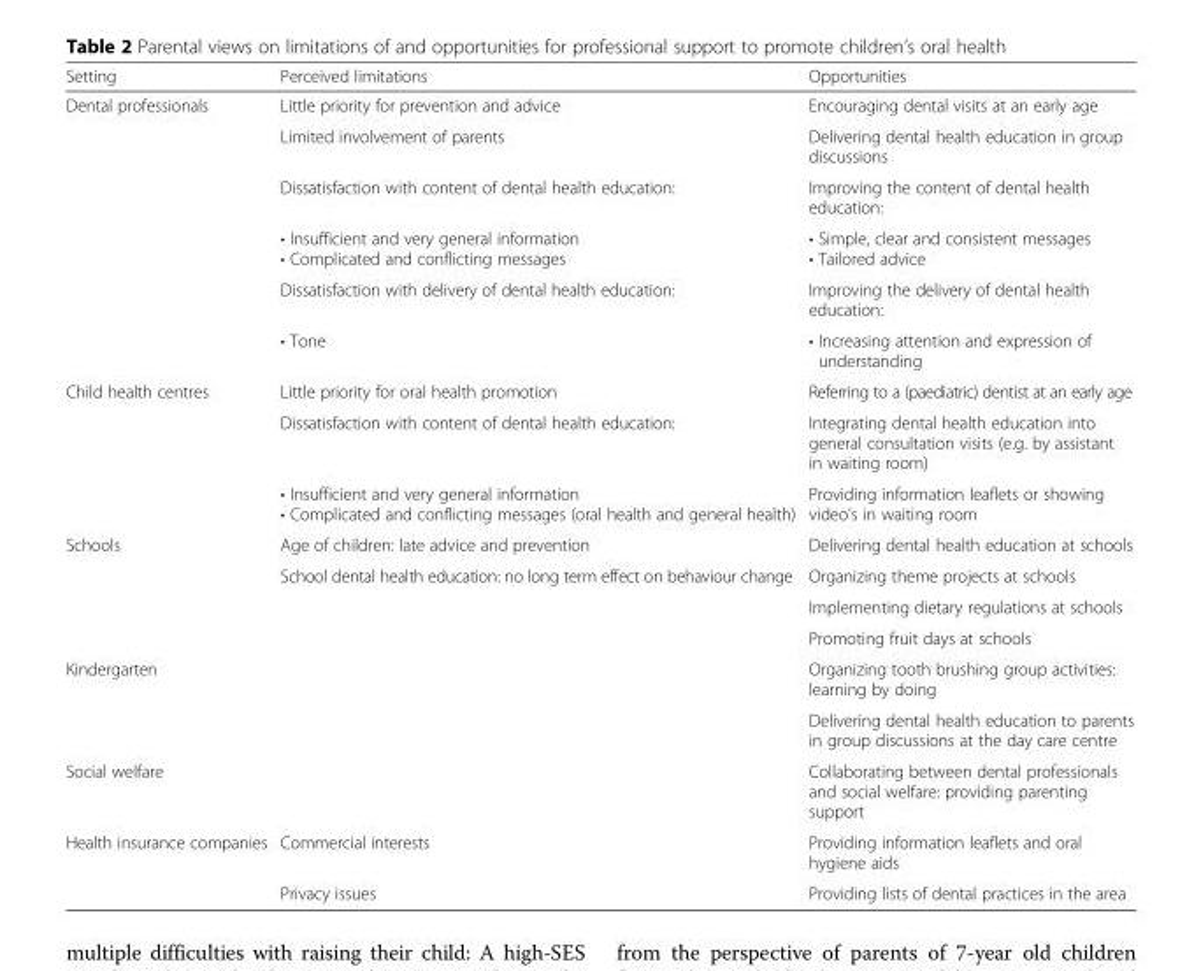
<table><thead><tr><td>Setting</td><td>Perceived limitations</td><td>Opportunities</td></tr></thead><tbody><tr><td rowspan="6">Dental professionals</td><td>Little priority for prevention and advice</td><td>Encouraging dental visits at an early age</td></tr><tr><td>Limited involvement of parents</td><td>Delivering dental health education in group discussions</td></tr><tr><td>Dissatisfaction with content of dental health education:</td><td>Improving the content of dental health education:</td></tr><tr><td>• Insufficient and very general information • Complicated and conflicting messages</td><td>• Simple, clear and consistent messages • Tailored advice</td></tr><tr><td>Dissatisfaction with delivery of dental health education:</td><td>Improving the delivery of dental health education:</td></tr><tr><td>• Tone</td><td>• Increasing attention and expression of understanding</td></tr><tr><td rowspan="3">Child health centres</td><td>Little priority for oral health promotion</td><td>Referring to a (paediatric) dentist at an early age</td></tr><tr><td>Dissatisfaction with content of dental health education:</td><td>Integrating dental health education into general consultation visits (e.g. by assistant in waiting room)</td></tr><tr><td>• Insufficient and very general information • Complicated and conflicting messages (oral health and general health)</td><td>Providing information leaflets or showing video’s in waiting room</td></tr><tr><td rowspan="4">Schools</td><td>Age of children: late advice and prevention</td><td>Delivering dental health education at schools</td></tr><tr><td rowspan="3">School dental health education: no long term effect on behaviour change</td><td>Organizing theme projects at schools</td></tr><tr><td>Implementing dietary regulations at schools</td></tr><tr><td>Promoting fruit days at schools</td></tr><tr><td rowspan="2">Kindergarten</td><td rowspan="2"></td><td>Organizing tooth brushing group activities: learning by doing</td></tr><tr><td>Delivering dental health education to parents in group discussions at the day care centre</td></tr><tr><td>Social welfare</td><td></td><td>Collaborating between dental professionals and social welfare: providing parenting support</td></tr><tr><td rowspan="2">Health insurance companies</td><td>Commercial interests</td><td>Providing information leaflets and oral hygiene aids</td></tr><tr><td>Privacy issues</td><td>Providing lists of dental practices in the area</td></tr></tbody></table>